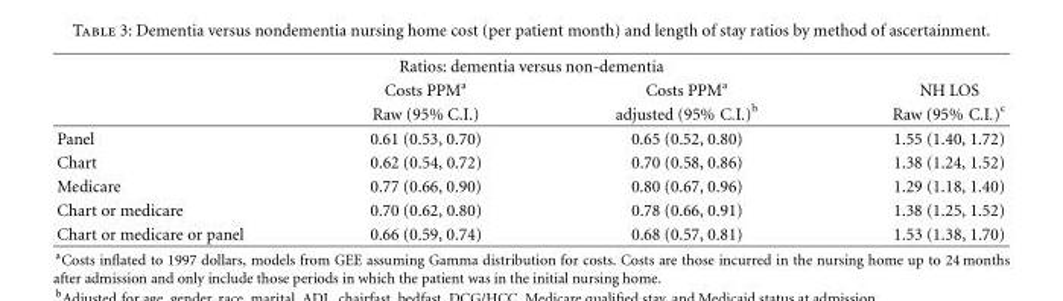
<table><thead><tr><td colspan="4">Ratios: dementia versus non-dementia</td></tr><tr><td rowspan="2"></td><td rowspan="2">Costs PPM<sup>a</sup> Raw (95% C.I.)</td><td rowspan="2">Costs PPM<sup>a</sup> adjusted (95% C.I.)<sup>b</sup></td><td rowspan="2">NH LOS Raw (95% C.I.)<sup>c</sup></td></tr><tr></tr></thead><tbody><tr><td>Panel</td><td>0.61 (0.53, 0.70)</td><td>0.65 (0.52, 0.80)</td><td>1.55 (1.40, 1.72)</td></tr><tr><td>Chart</td><td>0.62 (0.54, 0.72)</td><td>0.70 (0.58, 0.86)</td><td>1.38 (1.24, 1.52)</td></tr><tr><td>Medicare</td><td>0.77 (0.66, 0.90)</td><td>0.80 (0.67, 0.96)</td><td>1.29 (1.18, 1.40)</td></tr><tr><td>Chart or medicare</td><td>0.70 (0.62, 0.80)</td><td>0.78 (0.66, 0.91)</td><td>1.38 (1.25, 1.52)</td></tr><tr><td>Chart or medicare or panel</td><td>0.66 (0.59, 0.74)</td><td>0.68 (0.57, 0.81)</td><td>1.53 (1.38, 1.70)</td></tr></tbody></table>